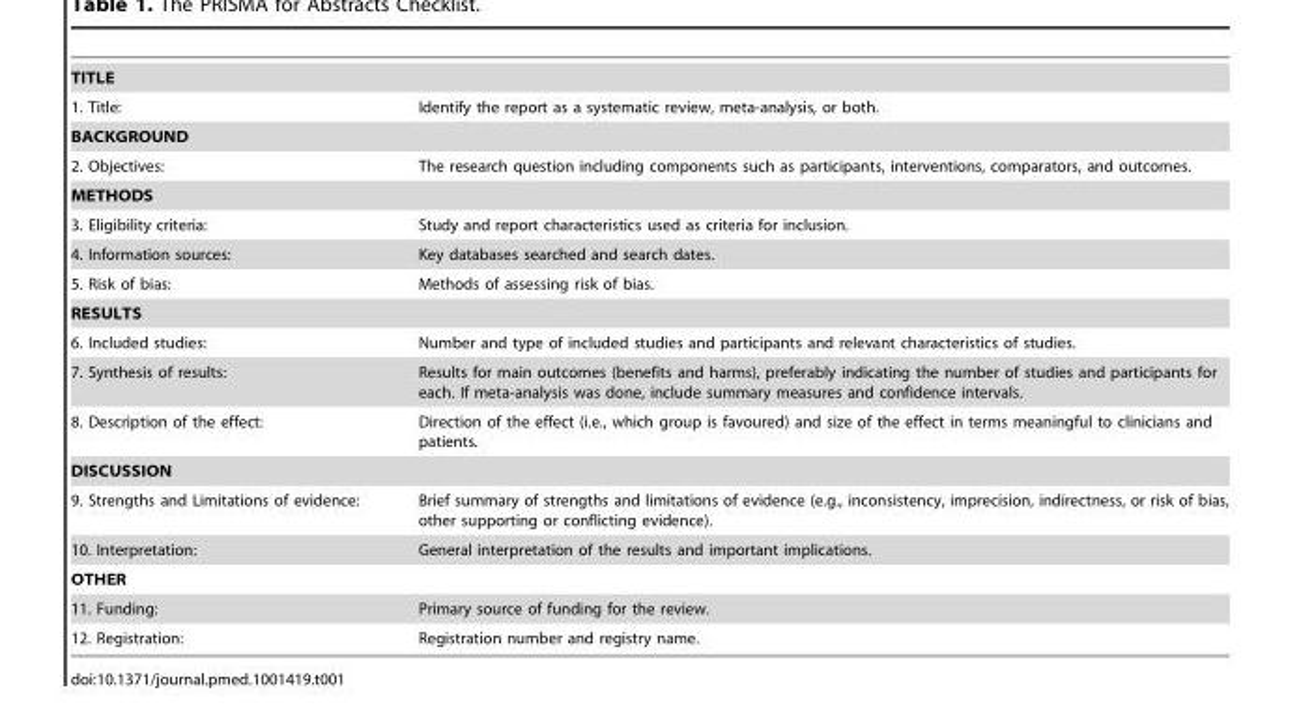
<table><tbody><tr><td colspan="2">TITLE</td></tr><tr><td>1. Title:</td><td>Identify the report as a systematic review, meta-analysis, or both.</td></tr><tr><td colspan="2">BACKGROUND</td></tr><tr><td>2. Objectives:</td><td>The research question including components such as participants, interventions, comparators, and outcomes.</td></tr><tr><td colspan="2">METHODS</td></tr><tr><td>3. Eligibility criteria:</td><td>Study and report characteristics used as criteria for inclusion.</td></tr><tr><td>4. Information sources:</td><td>Key databases searched and search dates.</td></tr><tr><td>5. Risk of bias:</td><td>Methods of assessing risk of bias.</td></tr><tr><td colspan="2">RESULTS</td></tr><tr><td>6. Included studies:</td><td>Number and type of included studies and participants and relevant characteristics of studies.</td></tr><tr><td>7. Synthesis of results:</td><td>Results for main outcomes (benefits and harms), preferably indicating the number of studies and participants for each. If meta-analysis was done, include summary measures and confidence intervals.</td></tr><tr><td>8. Description of the effect:</td><td>Direction of the effect (i.e., which group is favoured) and size of the effect in terms meaningful to clinicians and patients.</td></tr><tr><td colspan="2">DISCUSSION</td></tr><tr><td>9. Strengths and Limitations of evidence:</td><td>Brief summary of strengths and limitations of evidence (e.g., inconsistency, imprecision, indirectness, or risk of bias, other supporting or conflicting evidence).</td></tr><tr><td>10. Interpretation:</td><td>General interpretation of the results and important implications.</td></tr><tr><td colspan="2">OTHER</td></tr><tr><td>11. Funding:</td><td>Primary source of funding for the review.</td></tr><tr><td>12. Registration:</td><td>Registration number and registry name.</td></tr></tbody></table>